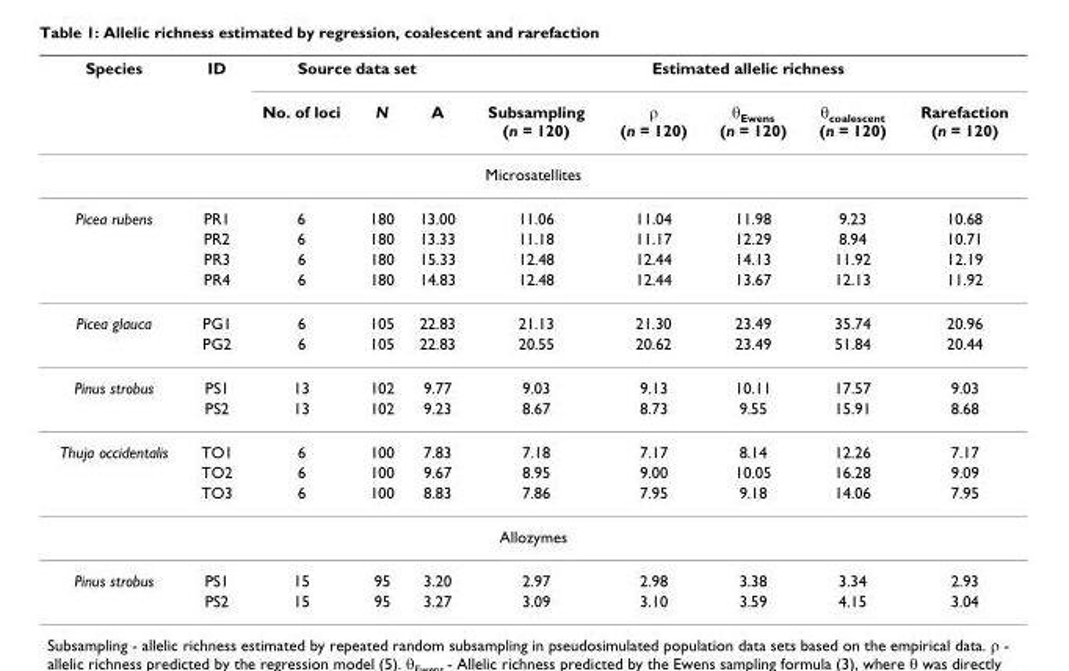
<table><thead><tr><td rowspan="2">Species</td><td rowspan="2">ID</td><td colspan="3">Source data set</td><td colspan="5">Estimated allelic richness</td></tr><tr><td>No. of loci</td><td>N</td><td>A</td><td>Subsampling (n = 120)</td><td>ρ (n = 120)</td><td>θ<sub>Ewens</sub> (n = 120)</td><td>θ<sub>coalescent</sub> (n = 120)</td><td>Rarefaction (n = 120)</td></tr></thead><tbody><tr><td colspan="10">Microsatellites</td></tr><tr><td rowspan="4">Picea rubens</td><td>PR1</td><td>6</td><td>180</td><td>13.00</td><td>11.06</td><td>11.04</td><td>11.98</td><td>9.23</td><td>10.68</td></tr><tr><td>PR2</td><td>6</td><td>180</td><td>13.33</td><td>11.18</td><td>11.17</td><td>12.29</td><td>8.94</td><td>10.71</td></tr><tr><td>PR3</td><td>6</td><td>180</td><td>15.33</td><td>12.48</td><td>12.44</td><td>14.13</td><td>11.92</td><td>12.19</td></tr><tr><td>PR4</td><td>6</td><td>180</td><td>14.83</td><td>12.48</td><td>12.44</td><td>13.67</td><td>12.13</td><td>11.92</td></tr><tr><td rowspan="2">Picea glauca</td><td>PG1</td><td>6</td><td>105</td><td>22.83</td><td>21.13</td><td>21.30</td><td>23.49</td><td>35.74</td><td>20.96</td></tr><tr><td>PG2</td><td>6</td><td>105</td><td>22.83</td><td>20.55</td><td>20.62</td><td>23.49</td><td>51.84</td><td>20.44</td></tr><tr><td rowspan="2">Pinus strobus</td><td>PS1</td><td>13</td><td>102</td><td>9.77</td><td>9.03</td><td>9.13</td><td>10.11</td><td>17.57</td><td>9.03</td></tr><tr><td>PS2</td><td>13</td><td>102</td><td>9.23</td><td>8.67</td><td>8.73</td><td>9.55</td><td>15.91</td><td>8.68</td></tr><tr><td rowspan="3">Thuja occidentalis</td><td>TO1</td><td>6</td><td>100</td><td>7.83</td><td>7.18</td><td>7.17</td><td>8.14</td><td>12.26</td><td>7.17</td></tr><tr><td>TO2</td><td>6</td><td>100</td><td>9.67</td><td>8.95</td><td>9.00</td><td>10.05</td><td>16.28</td><td>9.09</td></tr><tr><td>TO3</td><td>6</td><td>100</td><td>8.83</td><td>7.86</td><td>7.95</td><td>9.18</td><td>14.06</td><td>7.95</td></tr><tr><td colspan="10">Allozymes</td></tr><tr><td rowspan="2">Pinus strobus</td><td>PS1</td><td>15</td><td>95</td><td>3.20</td><td>2.97</td><td>2.98</td><td>3.38</td><td>3.34</td><td>2.93</td></tr><tr><td>PS2</td><td>15</td><td>95</td><td>3.27</td><td>3.09</td><td>3.10</td><td>3.59</td><td>4.15</td><td>3.04</td></tr></tbody></table>